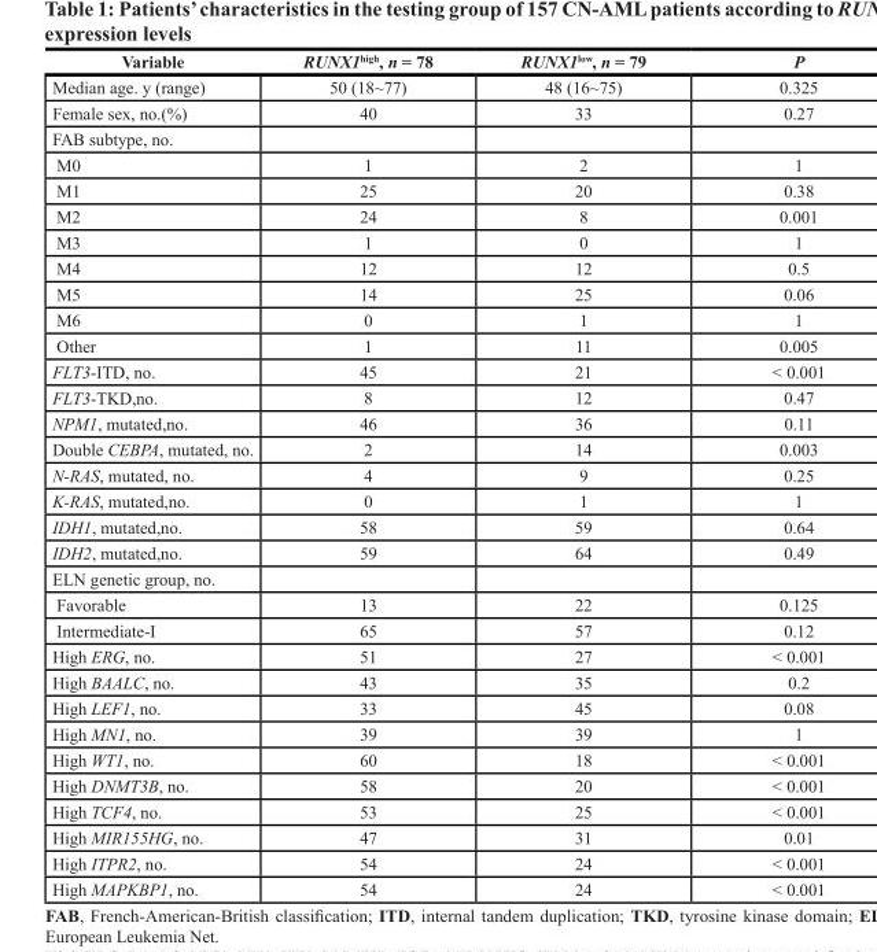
<table><thead><tr><td>Variable</td><td>RUNX1<sup>high</sup>, n = 78</td><td>RUNX1<sup>low</sup>, n = 79</td><td>P</td></tr></thead><tbody><tr><td>Median age. y (range)</td><td>50 (18~77)</td><td>48 (16~75)</td><td>0.325</td></tr><tr><td>Female sex, no.(%)</td><td>40</td><td>33</td><td>0.27</td></tr><tr><td colspan="4">FAB subtype, no.</td></tr><tr><td>M0</td><td>1</td><td>2</td><td>1</td></tr><tr><td>M1</td><td>25</td><td>20</td><td>0.38</td></tr><tr><td>M2</td><td>24</td><td>8</td><td>0.001</td></tr><tr><td>M3</td><td>1</td><td>0</td><td>1</td></tr><tr><td>M4</td><td>12</td><td>12</td><td>0.5</td></tr><tr><td>M5</td><td>14</td><td>25</td><td>0.06</td></tr><tr><td>M6</td><td>0</td><td>1</td><td>1</td></tr><tr><td>Other</td><td>1</td><td>11</td><td>0.005</td></tr><tr><td>FLT3-ITD, no.</td><td>45</td><td>21</td><td>&lt; 0.001</td></tr><tr><td>FLT3-TKD,no.</td><td>8</td><td>12</td><td>0.47</td></tr><tr><td>NPM1, mutated,no.</td><td>46</td><td>36</td><td>0.11</td></tr><tr><td>Double CEBPA, mutated, no.</td><td>2</td><td>14</td><td>0.003</td></tr><tr><td>N-RAS, mutated, no.</td><td>4</td><td>9</td><td>0.25</td></tr><tr><td>K-RAS, mutated,no.</td><td>0</td><td>1</td><td>1</td></tr><tr><td>IDH1, mutated,no.</td><td>58</td><td>59</td><td>0.64</td></tr><tr><td>IDH2, mutated,no.</td><td>59</td><td>64</td><td>0.49</td></tr><tr><td colspan="4">ELN genetic group, no.</td></tr><tr><td>Favorable</td><td>13</td><td>22</td><td>0.125</td></tr><tr><td>Intermediate-I</td><td>65</td><td>57</td><td>0.12</td></tr><tr><td>High ERG, no.</td><td>51</td><td>27</td><td>&lt; 0.001</td></tr><tr><td>High BAALC, no.</td><td>43</td><td>35</td><td>0.2</td></tr><tr><td>High LEF1, no.</td><td>33</td><td>45</td><td>0.08</td></tr><tr><td>High MN1, no.</td><td>39</td><td>39</td><td>1</td></tr><tr><td>High WT1, no.</td><td>60</td><td>18</td><td>&lt; 0.001</td></tr><tr><td>High DNMT3B, no.</td><td>58</td><td>20</td><td>&lt; 0.001</td></tr><tr><td>High TCF4, no.</td><td>53</td><td>25</td><td>&lt; 0.001</td></tr><tr><td>High MIR155HG, no.</td><td>47</td><td>31</td><td>0.01</td></tr><tr><td>High ITPR2, no.</td><td>54</td><td>24</td><td>&lt; 0.001</td></tr><tr><td>High MAPKBP1, no.</td><td>54</td><td>24</td><td>&lt; 0.001</td></tr></tbody></table>